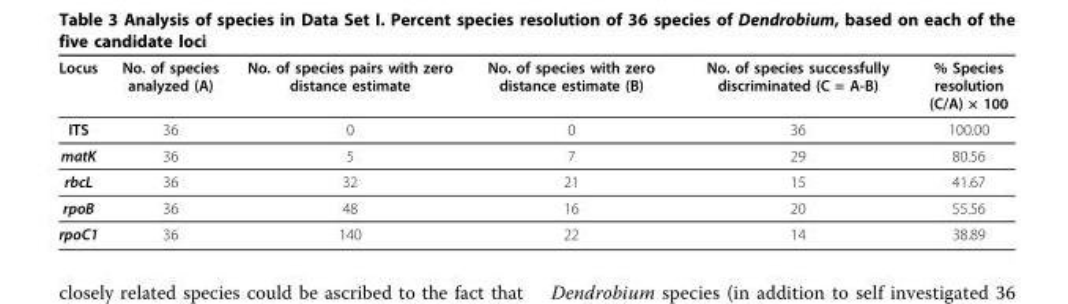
<table><thead><tr><td>Locus</td><td>No. of species analyzed (A)</td><td>No. of species pairs with zero distance estimate</td><td>No. of species with zero distance estimate (B)</td><td>No. of species successfully discriminated (C = A-B)</td><td>% Species resolution (C/A) × 100</td></tr></thead><tbody><tr><td>ITS</td><td>36</td><td>0</td><td>0</td><td>36</td><td>100.00</td></tr><tr><td>matK</td><td>36</td><td>5</td><td>7</td><td>29</td><td>80.56</td></tr><tr><td>rbcL</td><td>36</td><td>32</td><td>21</td><td>15</td><td>41.67</td></tr><tr><td>rpoB</td><td>36</td><td>48</td><td>16</td><td>20</td><td>55.56</td></tr><tr><td>rpoC1</td><td>36</td><td>140</td><td>22</td><td>14</td><td>38.89</td></tr></tbody></table>